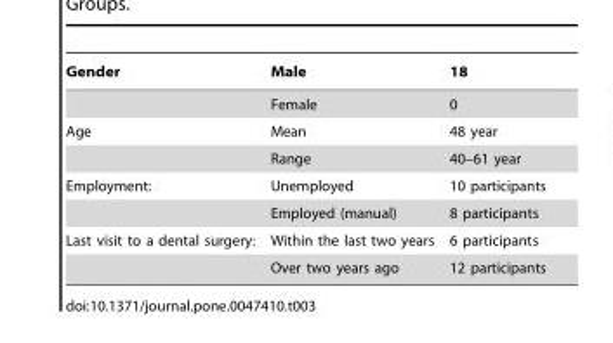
<table><thead><tr><td>Gender</td><td>Male</td><td>18</td></tr></thead><tbody><tr><td></td><td>Female</td><td>0</td></tr><tr><td rowspan="2">Age</td><td>Mean</td><td>48 year</td></tr><tr><td>Range</td><td>40–61 year</td></tr><tr><td rowspan="2">Employment:</td><td>Unemployed</td><td>10 participants</td></tr><tr><td>Employed (manual)</td><td>8 participants</td></tr><tr><td rowspan="2">Last visit to a dental surgery:</td><td>Within the last two years</td><td>6 participants</td></tr><tr><td>Over two years ago</td><td>12 participants</td></tr></tbody></table>